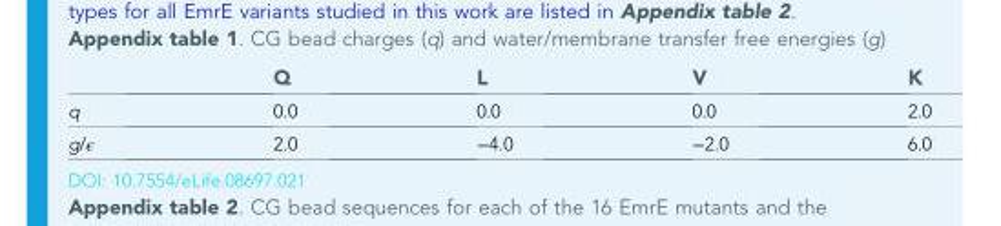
<table><thead><tr><td></td><td>Q</td><td>L</td><td>V</td><td>K</td></tr></thead><tbody><tr><td>q</td><td>0.0</td><td>0.0</td><td>0.0</td><td>2.0</td></tr><tr><td>g/ϵ</td><td>2.0</td><td>−4.0</td><td>−2.0</td><td>6.0</td></tr></tbody></table>